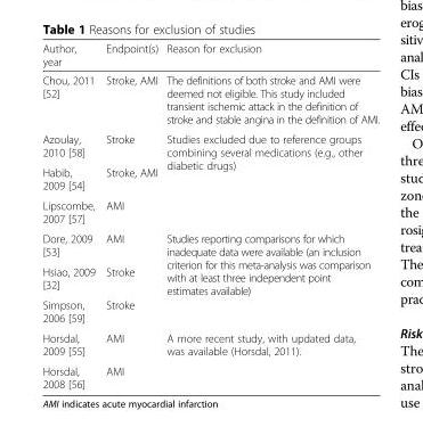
<table><thead><tr><td>Author, year</td><td>Endpoint(s)</td><td>Reason for exclusion</td></tr></thead><tbody><tr><td>Chou, 2011 [52]</td><td>Stroke, AMI</td><td>The definitions of both stroke and AMI were deemed not eligible. This study included transient ischemic attack in the definition of stroke and stable angina in the definition of AMI.</td></tr><tr><td>Azoulay, 2010 [58]</td><td>Stroke</td><td rowspan="3">Studies excluded due to reference groups combining several medications (e.g., other diabetic drugs)</td></tr><tr><td>Habib, 2009 [54]</td><td>Stroke, AMI</td></tr><tr><td>Lipscombe, 2007 [57]</td><td>AMI</td></tr><tr><td>Dore, 2009 [53]</td><td>AMI</td><td rowspan="3">Studies reporting comparisons for which inadequate data were available (an inclusion criterion for this meta-analysis was comparison with at least three independent point estimates available)</td></tr><tr><td>Hsiao, 2009 [32]</td><td>Stroke</td></tr><tr><td>Simpson, 2006 [59]</td><td>Stroke</td></tr><tr><td>Horsdal, 2009 [55]</td><td>AMI</td><td rowspan="2">A more recent study, with updated data, was available (Horsdal, 2011).</td></tr><tr><td>Horsdal, 2008 [56]</td><td>AMI</td></tr></tbody></table>